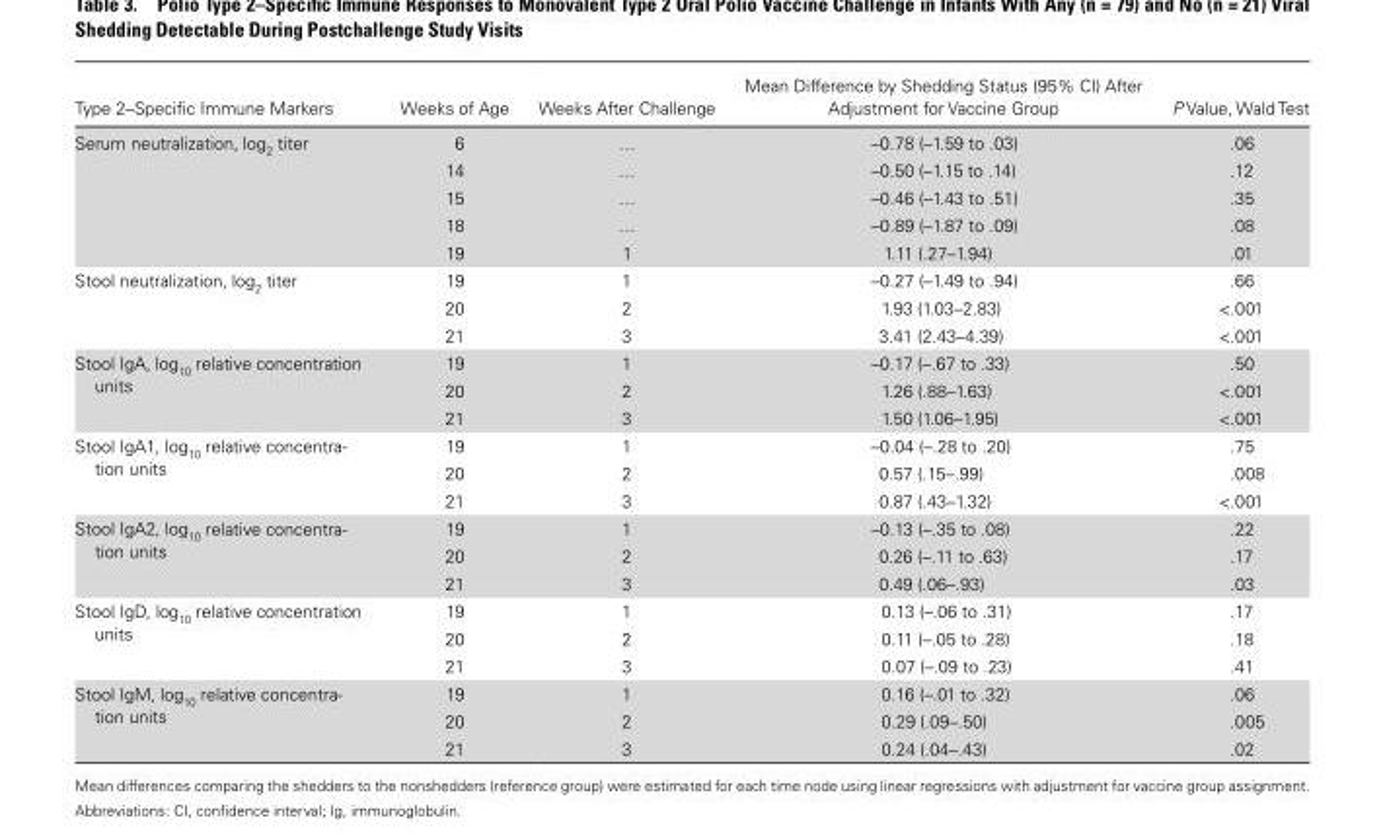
<table><thead><tr><td>Type 2–Specific Immune Markers</td><td>Weeks of Age</td><td>Weeks After Challenge</td><td>Mean Difference by Shedding Status (95% CI) After Adjustment for Vaccine Group</td><td>P Value, Wald Test</td></tr></thead><tbody><tr><td rowspan="5">Serum neutralization, log<sub>2</sub> titer</td><td>6</td><td>…</td><td>–0.78 (–1.59 to .03)</td><td>.06</td></tr><tr><td>14</td><td>…</td><td>–0.50 (–1.15 to .14)</td><td>.12</td></tr><tr><td>15</td><td>…</td><td>–0.46 (–1.43 to .51)</td><td>.35</td></tr><tr><td>18</td><td>…</td><td>–0.89 (–1.87 to .09)</td><td>.08</td></tr><tr><td>19</td><td>1</td><td>1.11 (.27–1.94)</td><td>.01</td></tr><tr><td rowspan="3">Stool neutralization, log<sub>2</sub> titer</td><td>19</td><td>1</td><td>–0.27 (–1.49 to .94)</td><td>.66</td></tr><tr><td>20</td><td>2</td><td>1.93 (1.03–2.83)</td><td>&lt;.001</td></tr><tr><td>21</td><td>3</td><td>3.41 (2.43–4.39)</td><td>&lt;.001</td></tr><tr><td rowspan="3">Stool IgA, log<sub>10</sub> relative concentration units</td><td>19</td><td>1</td><td>–0.17 (–.67 to .33)</td><td>.50</td></tr><tr><td>20</td><td>2</td><td>1.26 (.88–1.63)</td><td>&lt;.001</td></tr><tr><td>21</td><td>3</td><td>1.50 (1.06–1.95)</td><td>&lt;.001</td></tr><tr><td rowspan="3">Stool IgA1, log10 relative concentra- tion units</td><td>19</td><td>1</td><td>–0.04 (–.28 to .20)</td><td>.75</td></tr><tr><td>20</td><td>2</td><td>0.57 (.15–.99)</td><td>.008</td></tr><tr><td>21</td><td>3</td><td>0.87 (.43–1.32)</td><td>&lt;.001</td></tr><tr><td rowspan="3">Stool IgA2, log10 relative concentra- tion units</td><td>19</td><td>1</td><td>–0.13 (–.35 to .08)</td><td>.22</td></tr><tr><td>20</td><td>2</td><td>0.26 (–.11 to .63)</td><td>.17</td></tr><tr><td>21</td><td>3</td><td>0.49 (.06–.93)</td><td>.03</td></tr><tr><td rowspan="3">Stool IgD, log<sub>10</sub> relative concentration units</td><td>19</td><td>1</td><td>0.13 (–.06 to .31)</td><td>.17</td></tr><tr><td>20</td><td>2</td><td>0.11 (–.05 to .28)</td><td>.18</td></tr><tr><td>21</td><td>3</td><td>0.07 (–.09 to .23)</td><td>.41</td></tr><tr><td rowspan="3">Stool IgM, log10 relative concentra- tion units</td><td>19</td><td>1</td><td>0.16 (–.01 to .32)</td><td>.06</td></tr><tr><td>20</td><td>2</td><td>0.29 (.09–.50)</td><td>.005</td></tr><tr><td>21</td><td>3</td><td>0.24 (.04–.43)</td><td>.02</td></tr></tbody></table>